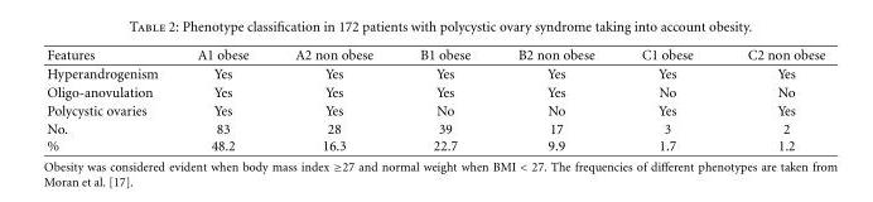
<table><thead><tr><td>Features</td><td>A1 obese</td><td>A2 non obese</td><td>B1 obese</td><td>B2 non obese</td><td>C1 obese</td><td>C2 non obese</td></tr></thead><tbody><tr><td>Hyperandrogenism</td><td>Yes</td><td>Yes</td><td>Yes</td><td>Yes</td><td>Yes</td><td>Yes</td></tr><tr><td>Oligo-anovulation</td><td>Yes</td><td>Yes</td><td>Yes</td><td>Yes</td><td>No</td><td>No</td></tr><tr><td>Polycystic ovaries</td><td>Yes</td><td>Yes</td><td>No</td><td>No</td><td>Yes</td><td>Yes</td></tr><tr><td>No. %</td><td>83 48.2</td><td>28 16.3</td><td>39 22.7</td><td>17 9.9</td><td>3 1.7</td><td>2 1.2</td></tr></tbody></table>